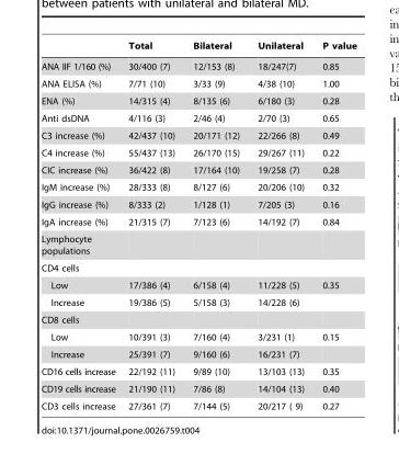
<table><thead><tr><td></td><td>Total</td><td>Bilateral</td><td>Unilateral</td><td>P value</td></tr></thead><tbody><tr><td>ANA IIF 1/160 (%)</td><td>30/400 (7)</td><td>12/153 (8)</td><td>18/247(7)</td><td>0.85</td></tr><tr><td>ANA ELISA (%)</td><td>7/71 (10)</td><td>3/33 (9)</td><td>4/38 (10)</td><td>1.00</td></tr><tr><td>ENA (%)</td><td>14/315 (4)</td><td>8/135 (6)</td><td>6/180 (3)</td><td>0.28</td></tr><tr><td>Anti dsDNA</td><td>4/116 (3)</td><td>2/46 (4)</td><td>2/70 (3)</td><td>0.65</td></tr><tr><td>C3 increase (%)</td><td>42/437 (10)</td><td>20/171 (12)</td><td>22/266 (8)</td><td>0.49</td></tr><tr><td>C4 increase (%)</td><td>55/437 (13)</td><td>26/170 (15)</td><td>29/267 (11)</td><td>0.22</td></tr><tr><td>CIC increase (%)</td><td>36/422 (8)</td><td>17/164 (10)</td><td>19/258 (7)</td><td>0.28</td></tr><tr><td>IgM increase (%)</td><td>28/333 (8)</td><td>8/127 (6)</td><td>20/206 (10)</td><td>0.32</td></tr><tr><td>IgG increase (%)</td><td>8/333 (2)</td><td>1/128 (1)</td><td>7/205 (3)</td><td>0.16</td></tr><tr><td>IgA increase (%)</td><td>21/315 (7)</td><td>7/123 (6)</td><td>14/192 (7)</td><td>0.84</td></tr><tr><td colspan="5">Lymphocyte populations</td></tr><tr><td colspan="5">CD4 cells</td></tr><tr><td>Low</td><td>17/386 (4)</td><td>6/158 (4)</td><td>11/228 (5)</td><td>0.35</td></tr><tr><td>Increase</td><td>19/386 (5)</td><td>5/158 (3)</td><td>14/228 (6)</td><td></td></tr><tr><td colspan="5">CD8 cells</td></tr><tr><td>Low</td><td>10/391 (3)</td><td>7/160 (4)</td><td>3/231 (1)</td><td>0.15</td></tr><tr><td>Increase</td><td>25/391 (7)</td><td>9/160 (6)</td><td>16/231 (7)</td><td></td></tr><tr><td>CD16 cells increase</td><td>22/192 (11)</td><td>9/89 (10)</td><td>13/103 (13)</td><td>0.35</td></tr><tr><td>CD19 cells increase</td><td>21/190 (11)</td><td>7/86 (8)</td><td>14/104 (13)</td><td>0.40</td></tr><tr><td>CD3 cells increase</td><td>27/361 (7)</td><td>7/144 (5)</td><td>20/217 ( 9)</td><td>0.27</td></tr></tbody></table>